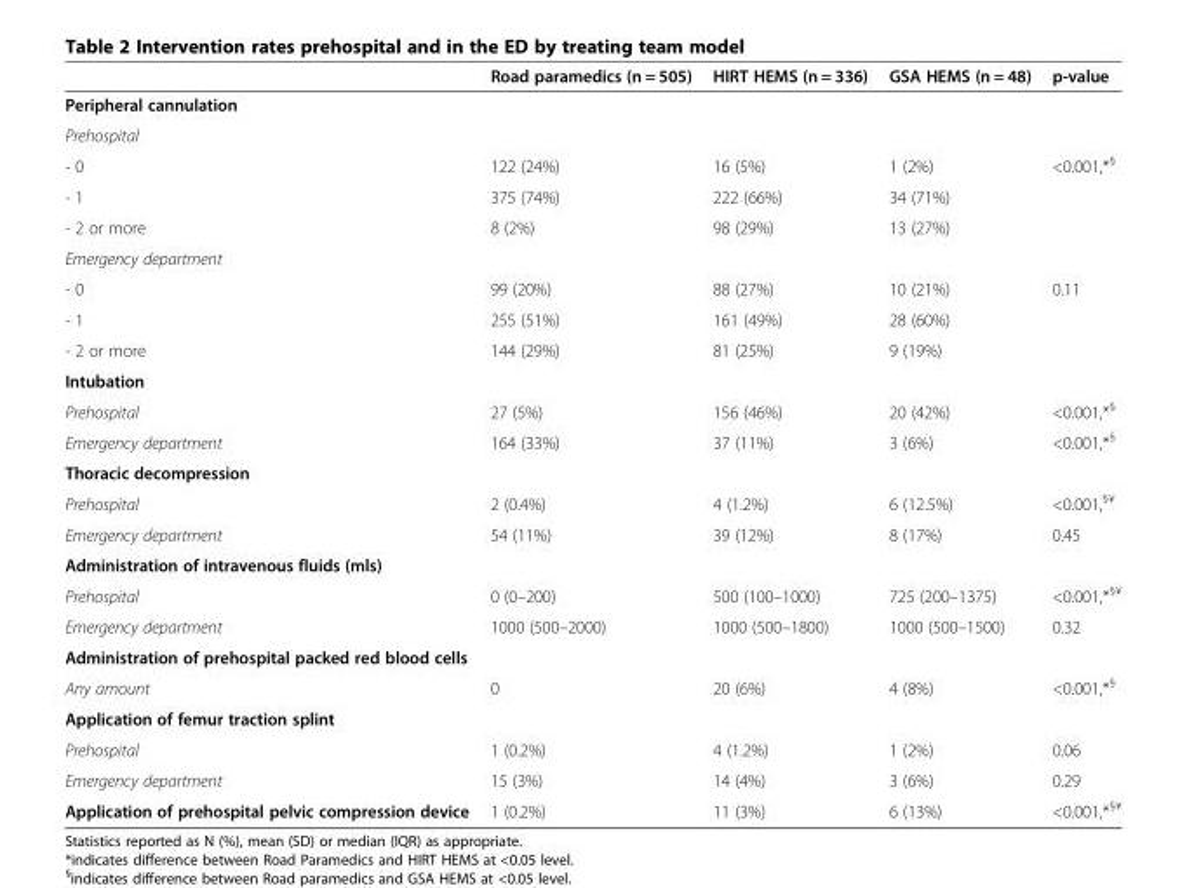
<table><thead><tr><td></td><td>Road paramedics (n = 505)</td><td>HIRT HEMS (n = 336)</td><td>GSA HEMS (n = 48)</td><td>p-value</td></tr></thead><tbody><tr><td colspan="5">Peripheral cannulation</td></tr><tr><td colspan="5">Prehospital</td></tr><tr><td>- 0</td><td>122 (24%)</td><td>16 (5%)</td><td>1 (2%)</td><td>&lt;0.001,*<sup>§</sup></td></tr><tr><td>- 1</td><td>375 (74%)</td><td>222 (66%)</td><td>34 (71%)</td><td></td></tr><tr><td>- 2 or more</td><td>8 (2%)</td><td>98 (29%)</td><td>13 (27%)</td><td></td></tr><tr><td colspan="5">Emergency department</td></tr><tr><td>- 0</td><td>99 (20%)</td><td>88 (27%)</td><td>10 (21%)</td><td>0.11</td></tr><tr><td>- 1</td><td>255 (51%)</td><td>161 (49%)</td><td>28 (60%)</td><td></td></tr><tr><td>- 2 or more</td><td>144 (29%)</td><td>81 (25%)</td><td>9 (19%)</td><td></td></tr><tr><td colspan="5">Intubation</td></tr><tr><td>Prehospital</td><td>27 (5%)</td><td>156 (46%)</td><td>20 (42%)</td><td>&lt;0.001,*<sup>§</sup></td></tr><tr><td>Emergency department</td><td>164 (33%)</td><td>37 (11%)</td><td>3 (6%)</td><td>&lt;0.001,*<sup>§</sup></td></tr><tr><td colspan="5">Thoracic decompression</td></tr><tr><td>Prehospital</td><td>2 (0.4%)</td><td>4 (1.2%)</td><td>6 (12.5%)</td><td>&lt;0.001,<sup>§¥</sup></td></tr><tr><td>Emergency department</td><td>54 (11%)</td><td>39 (12%)</td><td>8 (17%)</td><td>0.45</td></tr><tr><td colspan="5">Administration of intravenous fluids (mls)</td></tr><tr><td>Prehospital</td><td>0 (0–200)</td><td>500 (100–1000)</td><td>725 (200–1375)</td><td>&lt;0.001,*<sup>§¥</sup></td></tr><tr><td>Emergency department</td><td>1000 (500–2000)</td><td>1000 (500–1800)</td><td>1000 (500–1500)</td><td>0.32</td></tr><tr><td colspan="5">Administration of prehospital packed red blood cells</td></tr><tr><td>Any amount</td><td>0</td><td>20 (6%)</td><td>4 (8%)</td><td>&lt;0.001,*<sup>§</sup></td></tr><tr><td colspan="5">Application of femur traction splint</td></tr><tr><td>Prehospital</td><td>1 (0.2%)</td><td>4 (1.2%)</td><td>1 (2%)</td><td>0.06</td></tr><tr><td>Emergency department</td><td>15 (3%)</td><td>14 (4%)</td><td>3 (6%)</td><td>0.29</td></tr><tr><td>Application of prehospital pelvic compression device</td><td>1 (0.2%)</td><td>11 (3%)</td><td>6 (13%)</td><td>&lt;0.001,*<sup>§¥</sup></td></tr></tbody></table>